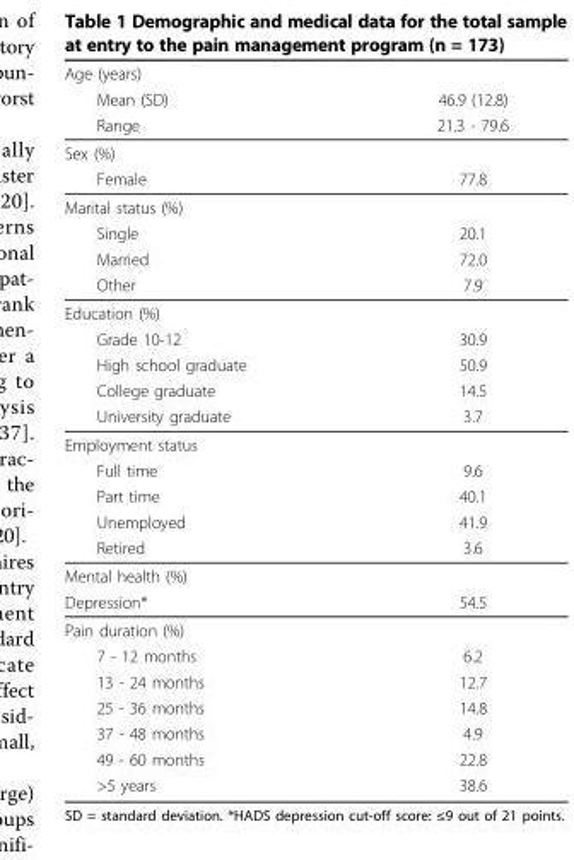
<table><thead><tr><td rowspan="3">Age (years) Mean (SD) Range</td><td rowspan="3">46.9 (12.8) 21.3 - 79.6</td></tr><tr></tr><tr></tr></thead><tbody><tr><td colspan="2">Sex (%)</td></tr><tr><td>Female</td><td>77.8</td></tr><tr><td colspan="2">Marital status (%)</td></tr><tr><td>Single</td><td>20.1</td></tr><tr><td>Married</td><td>72.0</td></tr><tr><td>Other</td><td>7.9</td></tr><tr><td colspan="2">Education (%)</td></tr><tr><td>Grade 10-12</td><td>30.9</td></tr><tr><td>High school graduate</td><td>50.9</td></tr><tr><td>College graduate</td><td>14.5</td></tr><tr><td>University graduate</td><td>3.7</td></tr><tr><td colspan="2">Employment status</td></tr><tr><td>Full time</td><td>9.6</td></tr><tr><td>Part time</td><td>40.1</td></tr><tr><td>Unemployed</td><td>41.9</td></tr><tr><td>Retired</td><td>3.6</td></tr><tr><td colspan="2">Mental health (%)</td></tr><tr><td>Depression*</td><td>54.5</td></tr><tr><td colspan="2">Pain duration (%)</td></tr><tr><td>7 - 12 months</td><td>6.2</td></tr><tr><td>13 - 24 months</td><td>12.7</td></tr><tr><td>25 - 36 months</td><td>14.8</td></tr><tr><td>37 - 48 months</td><td>4.9</td></tr><tr><td>49 - 60 months</td><td>22.8</td></tr><tr><td>&gt;5 years</td><td>38.6</td></tr></tbody></table>